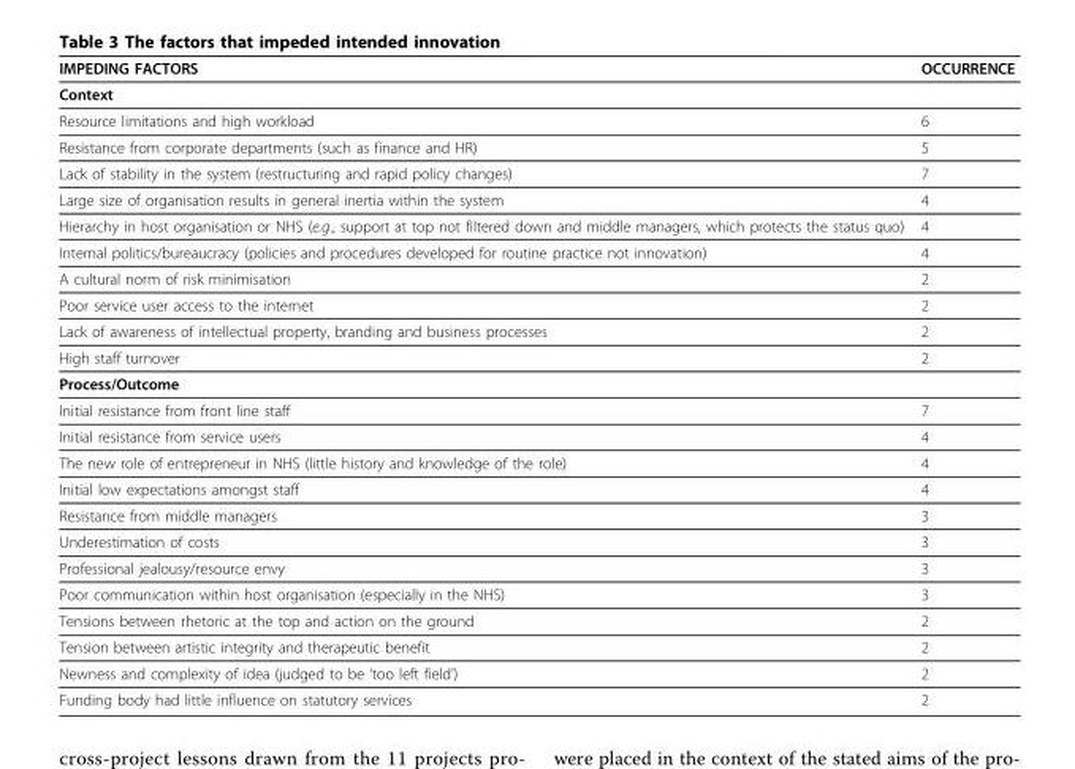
<table><thead><tr><td>IMPEDING FACTORS</td><td>OCCURRENCE</td></tr></thead><tbody><tr><td colspan="2">Context</td></tr><tr><td>Resource limitations and high workload</td><td>6</td></tr><tr><td>Resistance from corporate departments (such as finance and HR)</td><td>5</td></tr><tr><td>Lack of stability in the system (restructuring and rapid policy changes)</td><td>7</td></tr><tr><td>Large size of organisation results in general inertia within the system</td><td>4</td></tr><tr><td>Hierarchy in host organisation or NHS (e.g., support at top not filtered down and middle managers, which protects the status quo)</td><td>4</td></tr><tr><td>Internal politics/bureaucracy (policies and procedures developed for routine practice not innovation)</td><td>4</td></tr><tr><td>A cultural norm of risk minimisation</td><td>2</td></tr><tr><td>Poor service user access to the internet</td><td>2</td></tr><tr><td>Lack of awareness of intellectual property, branding and business processes</td><td>2</td></tr><tr><td>High staff turnover</td><td>2</td></tr><tr><td colspan="2">Process/Outcome</td></tr><tr><td>Initial resistance from front line staff</td><td>7</td></tr><tr><td>Initial resistance from service users</td><td>4</td></tr><tr><td>The new role of entrepreneur in NHS (little history and knowledge of the role)</td><td>4</td></tr><tr><td>Initial low expectations amongst staff</td><td>4</td></tr><tr><td>Resistance from middle managers</td><td>3</td></tr><tr><td>Underestimation of costs</td><td>3</td></tr><tr><td>Professional jealousy/resource envy</td><td>3</td></tr><tr><td>Poor communication within host organisation (especially in the NHS)</td><td>3</td></tr><tr><td>Tensions between rhetoric at the top and action on the ground</td><td>2</td></tr><tr><td>Tension between artistic integrity and therapeutic benefit</td><td>2</td></tr><tr><td>Newness and complexity of idea (judged to be ‘too left field’)</td><td>2</td></tr><tr><td>Funding body had little influence on statutory services</td><td>2</td></tr></tbody></table>